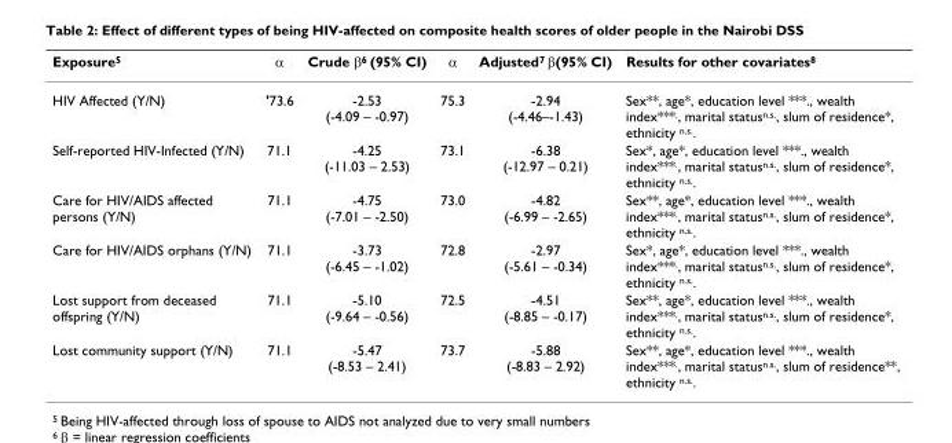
<table><thead><tr><td>Exposure<sup>5</sup></td><td>α</td><td>Crude β<sup>6</sup> (95% CI)</td><td>α</td><td>Adjusted<sup>7</sup> β(95% CI)</td><td>Results for other covariates<sup>8</sup></td></tr></thead><tbody><tr><td>HIV Affected (Y/N)</td><td>&#x27;73.6</td><td>-2.53 (-4.09 – -0.97)</td><td>75.3</td><td>-2.94 (-4.46–-1.43)</td><td>Sex**, age*, education level ***., wealth index***<sup>.</sup>, marital status<sup>n.s.</sup>, slum of residence*, ethnicity <sup>n.s.</sup>.</td></tr><tr><td>Self-reported HIV-Infected (Y/N)</td><td>71.1</td><td>-4.25 (-11.03 – 2.53)</td><td>73.1</td><td>-6.38 (-12.97 – 0.21)</td><td>Sex*, age*, education level ***., wealth index***<sup>.</sup>, marital status<sup>n.s.</sup>, slum of residence*, ethnicity <sup>n.s.</sup>.</td></tr><tr><td>Care for HIV/AIDS affected persons (Y/N)</td><td>71.1</td><td>-4.75 (-7.01 – -2.50)</td><td>73.0</td><td>-4.82 (-6.99 – -2.65)</td><td>Sex**, age*, education level ***., wealth index***<sup>.</sup>, marital status<sup>n.s.</sup>, slum of residence*, ethnicity <sup>n.s.</sup>.</td></tr><tr><td>Care for HIV/AIDS orphans (Y/N)</td><td>71.1</td><td>-3.73 (-6.45 – -1.02)</td><td>72.8</td><td>-2.97 (-5.61 – -0.34)</td><td>Sex*, age*, education level ***., wealth index***<sup>.</sup>, marital status<sup>n.s.</sup>, slum of residence*, ethnicity <sup>n.s.</sup>.</td></tr><tr><td>Lost support from deceased offspring (Y/N)</td><td>71.1</td><td>-5.10 (-9.64 – -0.56)</td><td>72.5</td><td>-4.51 (-8.85 – -0.17)</td><td>Sex**, age*, education level ***., wealth index***<sup>.</sup>, marital status<sup>n.s.</sup>, slum of residence*, ethnicity <sup>n.s.</sup>.</td></tr><tr><td>Lost community support (Y/N)</td><td>71.1</td><td>-5.47 (-8.53 – 2.41)</td><td>73.7</td><td>-5.88 (-8.83 – 2.92)</td><td>Sex**, age*, education level ***., wealth index***<sup>.</sup>, marital status<sup>n.s.</sup>, slum of residence**, ethnicity <sup>n.s.</sup>.</td></tr></tbody></table>